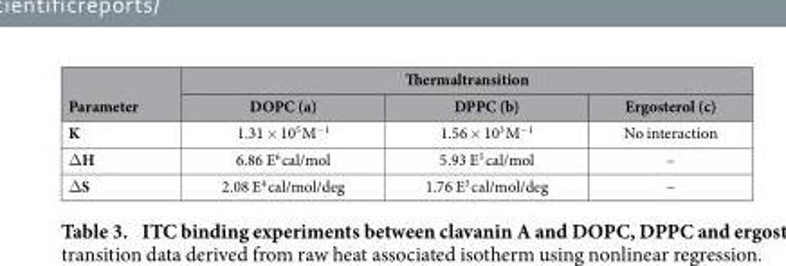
<table><thead><tr><td rowspan="2">Parameter</td><td colspan="3">Thermaltransition</td></tr><tr><td>DOPC (a)</td><td>DPPC (b)</td><td>Ergosterol (c)</td></tr></thead><tbody><tr><td>K</td><td>1.31 × 10<sup>5</sup> M<sup>−1</sup></td><td>1.56 × 10<sup>3</sup> M<sup>−1</sup></td><td>No interaction</td></tr><tr><td>Δ H</td><td>6.86 E<sup>6</sup> cal/mol</td><td>5.93 E<sup>5</sup> cal/mol</td><td>–</td></tr><tr><td>Δ S</td><td>2.08 E<sup>4</sup> cal/mol/deg</td><td>1.76 E<sup>3</sup> cal/mol/deg</td><td>–</td></tr></tbody></table>